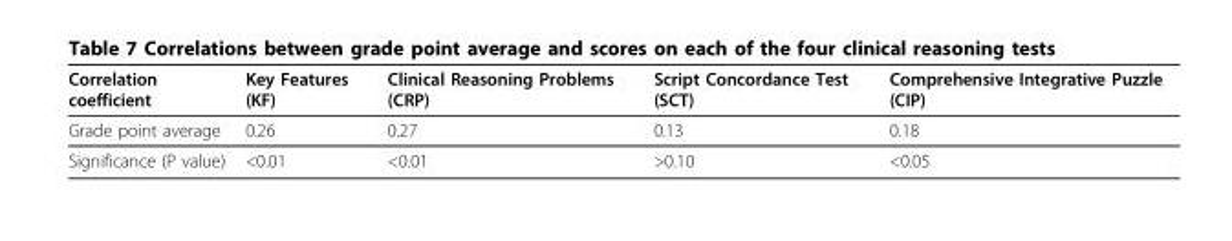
<table><thead><tr><td>Correlation coefficient</td><td>Key Features (KF)</td><td>Clinical Reasoning Problems (CRP)</td><td>Script Concordance Test (SCT)</td><td>Comprehensive Integrative Puzzle (CIP)</td></tr></thead><tbody><tr><td>Grade point average</td><td>0.26</td><td>0.27</td><td>0.13</td><td>0.18</td></tr><tr><td>Significance (P value)</td><td>&lt;0.01</td><td>&lt;0.01</td><td>&gt;0.10</td><td>&lt;0.05</td></tr></tbody></table>